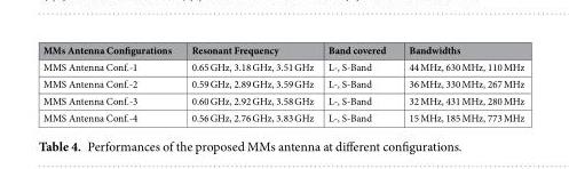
<table><thead><tr><td>MMs Antenna Configurations</td><td>Resonant Frequency</td><td>Band covered</td><td>Bandwidths</td></tr></thead><tbody><tr><td>MMS Antenna Conf.-1</td><td>0.65 GHz, 3.18 GHz, 3.51 GHz</td><td>L-, S-Band</td><td>44 MHz, 630 MHz, 110 MHz</td></tr><tr><td>MMS Antenna Conf.-2</td><td>0.59 GHz, 2.89 GHz, 3.59 GHz</td><td>L-, S-Band</td><td>36 MHz, 330 MHz, 267 MHz</td></tr><tr><td>MMS Antenna Conf.-3</td><td>0.60 GHz, 2.92 GHz, 3.58 GHz</td><td>L-, S-Band</td><td>32 MHz, 431 MHz, 280 MHz</td></tr><tr><td>MMS Antenna Conf.-4</td><td>0.56 GHz, 2.76 GHz, 3.83 GHz</td><td>L-, S-Band</td><td>15 MHz, 185 MHz, 773 MHz</td></tr></tbody></table>